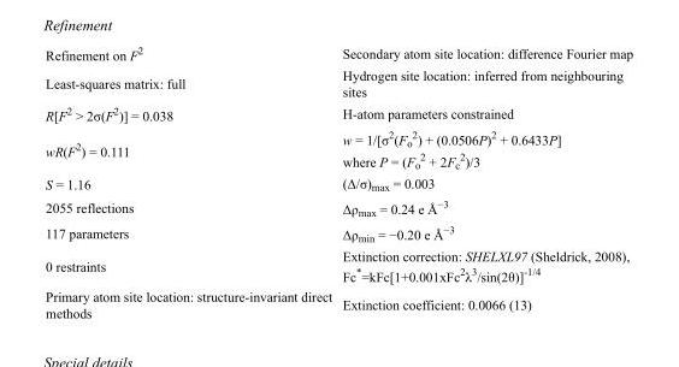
<table><tbody><tr><td>Refinement on F<sup>2</sup></td><td>Secondary atom site location: difference Fourier map</td></tr><tr><td>Least-squares matrix: full</td><td>Hydrogen site location: inferred from neighbouring sites</td></tr><tr><td>R[F<sup>2</sup> &gt; 2σ(F<sup>2</sup>)] = 0.038</td><td>H-atom parameters constrained</td></tr><tr><td>wR(F<sup>2</sup>) = 0.111</td><td>w = 1/[σ<sup>2</sup>(F<sub>o</sub> <sup>2</sup>) + (0.0506P)<sup>2</sup> + 0.6433P] where P = (F<sub>o</sub> <sup>2</sup> + 2F<sub>c</sub> <sup>2</sup>)/3</td></tr><tr><td>S = 1.16</td><td>(Δ/σ)<sub>max</sub> = 0.003</td></tr><tr><td>2055 reflections</td><td>Δρ<sub>max</sub> = 0.24 e Å<sup>−3</sup></td></tr><tr><td>117 parameters</td><td>Δρ<sub>min</sub> = −0.20 e Å<sup>−3</sup></td></tr><tr><td>0 restraints</td><td>Extinction correction: SHELXL97 (Sheldrick, 2008), Fc*=kFc[1+0.001xFc<sup>2</sup>λ<sup>3</sup>/sin(2θ)]<sup>-1/4</sup></td></tr><tr><td>Primary atom site location: structure-invariant direct methods</td><td>Extinction coefficient: 0.0066 (13)</td></tr></tbody></table>